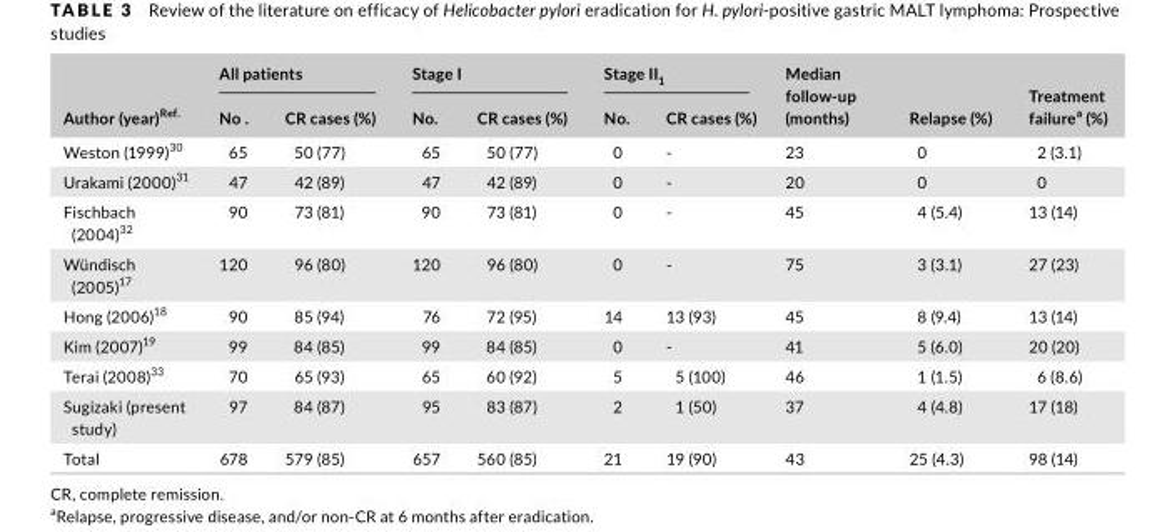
<table><thead><tr><td rowspan="2">Author (year)<sup>Ref.</sup></td><td colspan="2">All patients</td><td colspan="2">Stage I</td><td colspan="2">Stage II<sub>1</sub></td><td rowspan="2">Median follow- up (months)</td><td rowspan="2">Relapse (%)</td><td rowspan="2">Treatment failure<sup>a</sup> (%)</td></tr><tr><td>No .</td><td>CR cases (%)</td><td>No.</td><td>CR cases (%)</td><td>No.</td><td>CR cases (%)</td></tr></thead><tbody><tr><td>Weston (1999)<sup>30</sup></td><td>65</td><td>50 (77)</td><td>65</td><td>50 (77)</td><td>0</td><td>-</td><td>23</td><td>0</td><td>2 (3.1)</td></tr><tr><td>Urakami (2000)<sup>31</sup></td><td>47</td><td>42 (89)</td><td>47</td><td>42 (89)</td><td>0</td><td>-</td><td>20</td><td>0</td><td>0</td></tr><tr><td>Fischbach (2004)<sup>32</sup></td><td>90</td><td>73 (81)</td><td>90</td><td>73 (81)</td><td>0</td><td>-</td><td>45</td><td>4 (5.4)</td><td>13 (14)</td></tr><tr><td>Wündisch (2005)<sup>17</sup></td><td>120</td><td>96 (80)</td><td>120</td><td>96 (80)</td><td>0</td><td>-</td><td>75</td><td>3 (3.1)</td><td>27 (23)</td></tr><tr><td>Hong (2006)<sup>18</sup></td><td>90</td><td>85 (94)</td><td>76</td><td>72 (95)</td><td>14</td><td>13 (93)</td><td>45</td><td>8 (9.4)</td><td>13 (14)</td></tr><tr><td>Kim (2007)<sup>19</sup></td><td>99</td><td>84 (85)</td><td>99</td><td>84 (85)</td><td>0</td><td>-</td><td>41</td><td>5 (6.0)</td><td>20 (20)</td></tr><tr><td>Terai (2008)<sup>33</sup></td><td>70</td><td>65 (93)</td><td>65</td><td>60 (92)</td><td>5</td><td>5 (100)</td><td>46</td><td>1 (1.5)</td><td>6 (8.6)</td></tr><tr><td>Sugizaki (present study)</td><td>97</td><td>84 (87)</td><td>95</td><td>83 (87)</td><td>2</td><td>1 (50)</td><td>37</td><td>4 (4.8)</td><td>17 (18)</td></tr><tr><td>Total</td><td>678</td><td>579 (85)</td><td>657</td><td>560 (85)</td><td>21</td><td>19 (90)</td><td>43</td><td>25 (4.3)</td><td>98 (14)</td></tr></tbody></table>